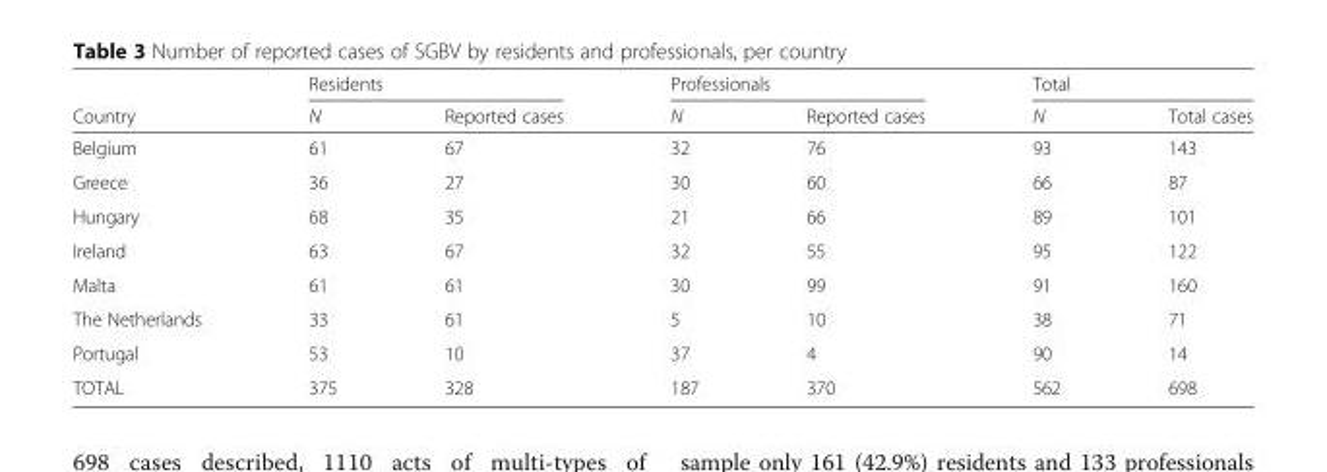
<table><thead><tr><td rowspan="2">Country</td><td colspan="2">Residents</td><td colspan="2">Professionals</td><td colspan="2">Total</td></tr><tr><td>N</td><td>Reported cases</td><td>N</td><td>Reported cases</td><td>N</td><td>Total cases</td></tr></thead><tbody><tr><td>Belgium</td><td>61</td><td>67</td><td>32</td><td>76</td><td>93</td><td>143</td></tr><tr><td>Greece</td><td>36</td><td>27</td><td>30</td><td>60</td><td>66</td><td>87</td></tr><tr><td>Hungary</td><td>68</td><td>35</td><td>21</td><td>66</td><td>89</td><td>101</td></tr><tr><td>Ireland</td><td>63</td><td>67</td><td>32</td><td>55</td><td>95</td><td>122</td></tr><tr><td>Malta</td><td>61</td><td>61</td><td>30</td><td>99</td><td>91</td><td>160</td></tr><tr><td>The Netherlands</td><td>33</td><td>61</td><td>5</td><td>10</td><td>38</td><td>71</td></tr><tr><td>Portugal</td><td>53</td><td>10</td><td>37</td><td>4</td><td>90</td><td>14</td></tr><tr><td>TOTAL</td><td>375</td><td>328</td><td>187</td><td>370</td><td>562</td><td>698</td></tr></tbody></table>